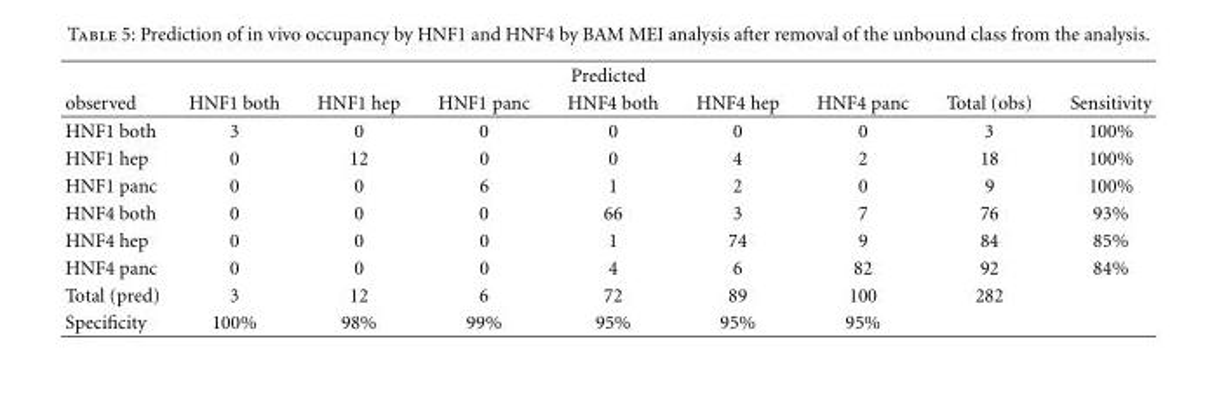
<table><thead><tr><td colspan="9">Predicted</td></tr><tr><td>observed</td><td>HNF1 both</td><td>HNF1 hep</td><td>HNF1 panc</td><td>HNF4 both</td><td>HNF4 hep</td><td>HNF4 panc</td><td>Total (obs)</td><td>Sensitivity</td></tr></thead><tbody><tr><td>HNF1 both</td><td>3</td><td>0</td><td>0</td><td>0</td><td>0</td><td>0</td><td>3</td><td>100%</td></tr><tr><td>HNF1 hep</td><td>0</td><td>12</td><td>0</td><td>0</td><td>4</td><td>2</td><td>18</td><td>100%</td></tr><tr><td>HNF1 panc</td><td>0</td><td>0</td><td>6</td><td>1</td><td>2</td><td>0</td><td>9</td><td>100%</td></tr><tr><td>HNF4 both</td><td>0</td><td>0</td><td>0</td><td>66</td><td>3</td><td>7</td><td>76</td><td>93%</td></tr><tr><td>HNF4 hep</td><td>0</td><td>0</td><td>0</td><td>1</td><td>74</td><td>9</td><td>84</td><td>85%</td></tr><tr><td>HNF4 panc</td><td>0</td><td>0</td><td>0</td><td>4</td><td>6</td><td>82</td><td>92</td><td>84%</td></tr><tr><td>Total (pred)</td><td>3</td><td>12</td><td>6</td><td>72</td><td>89</td><td>100</td><td>282</td><td></td></tr><tr><td>Specificity</td><td>100%</td><td>98%</td><td>99%</td><td>95%</td><td>95%</td><td>95%</td><td></td><td></td></tr></tbody></table>